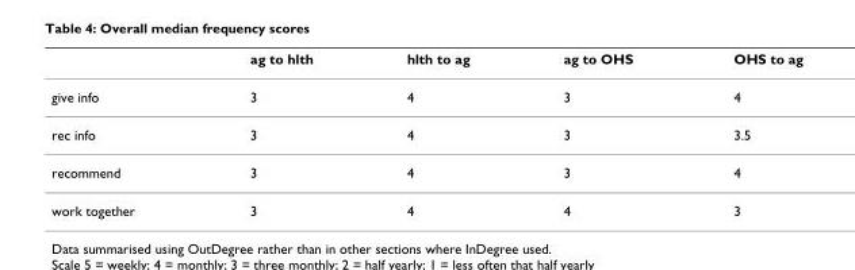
<table><thead><tr><td></td><td>ag to hlth</td><td>hlth to ag</td><td>ag to OHS</td><td>OHS to ag</td></tr></thead><tbody><tr><td>give info</td><td>3</td><td>4</td><td>3</td><td>4</td></tr><tr><td>rec info</td><td>3</td><td>4</td><td>3</td><td>3.5</td></tr><tr><td>recommend</td><td>3</td><td>4</td><td>3</td><td>4</td></tr><tr><td>work together</td><td>3</td><td>4</td><td>4</td><td>3</td></tr></tbody></table>